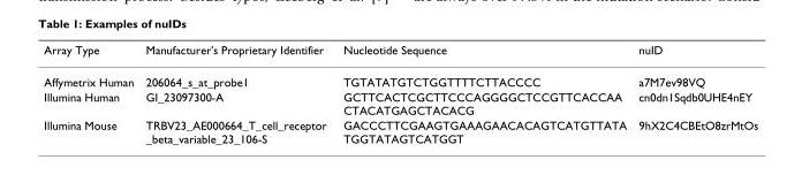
<table><thead><tr><td>Array Type</td><td>Manufacturer&#x27;s Proprietary Identifier</td><td>Nucleotide Sequence</td><td>nuID</td></tr></thead><tbody><tr><td>Affymetrix Human</td><td>206064_s_at_probe1</td><td>TGTATATGTCTGGTTTTCTTACCCC</td><td>a7M7ev98VQ</td></tr><tr><td>Illumina Human</td><td>GI_23097300-A</td><td>GCTTCACTCGCTTCCCAGGGGCTCCGTTCACCAA CTACATGAGCTACACG</td><td>cn0dn1Sqdb0UHE4nEY</td></tr><tr><td>Illumina Mouse</td><td>TRBV23_AE000664_T_cell_receptor _beta_variable_23_106-S</td><td>GACCCTTCGAAGTGAAAGAACACAGTCATGTTATA TGGTATAGTCATGGT</td><td>9hX2C4CBEtO8zrMtOs</td></tr></tbody></table>